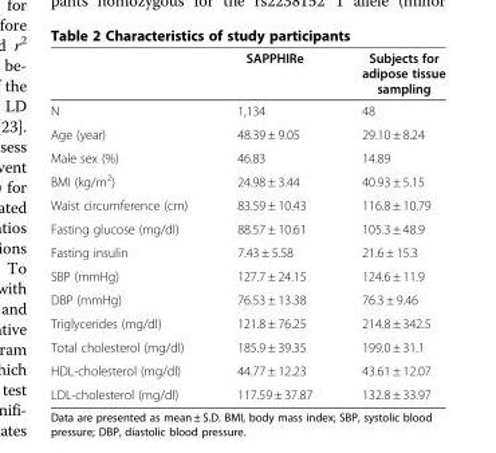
<table><thead><tr><td></td><td>SAPPHIRe</td><td>Subjects for adipose tissue sampling</td></tr></thead><tbody><tr><td>N</td><td>1,134</td><td>48</td></tr><tr><td>Age (year)</td><td>48.39 ± 9.05</td><td>29.10 ± 8.24</td></tr><tr><td>Male sex (%)</td><td>46.83</td><td>14.89</td></tr><tr><td>BMI (kg/m<sup>2</sup>)</td><td>24.98 ± 3.44</td><td>40.93 ± 5.15</td></tr><tr><td>Waist circumference (cm)</td><td>83.59 ± 10.43</td><td>116.8 ± 10.79</td></tr><tr><td>Fasting glucose (mg/dl)</td><td>88.57 ± 10.61</td><td>105.3 ± 48.9</td></tr><tr><td>Fasting insulin</td><td>7.43 ± 5.58</td><td>21.6 ± 15.3</td></tr><tr><td>SBP (mmHg)</td><td>127.7 ± 24.15</td><td>124.6 ± 11.9</td></tr><tr><td>DBP (mmHg)</td><td>76.53 ± 13.38</td><td>76.3 ± 9.46</td></tr><tr><td>Triglycerides (mg/dl)</td><td>121.8 ± 76.25</td><td>214.8 ± 342.5</td></tr><tr><td>Total cholesterol (mg/dl)</td><td>185.9 ± 39.35</td><td>199.0 ± 31.1</td></tr><tr><td>HDL-cholesterol (mg/dl)</td><td>44.77 ± 12.23</td><td>43.61 ± 12.07</td></tr><tr><td>LDL-cholesterol (mg/dl)</td><td>117.59 ± 37.87</td><td>132.8 ± 33.97</td></tr></tbody></table>